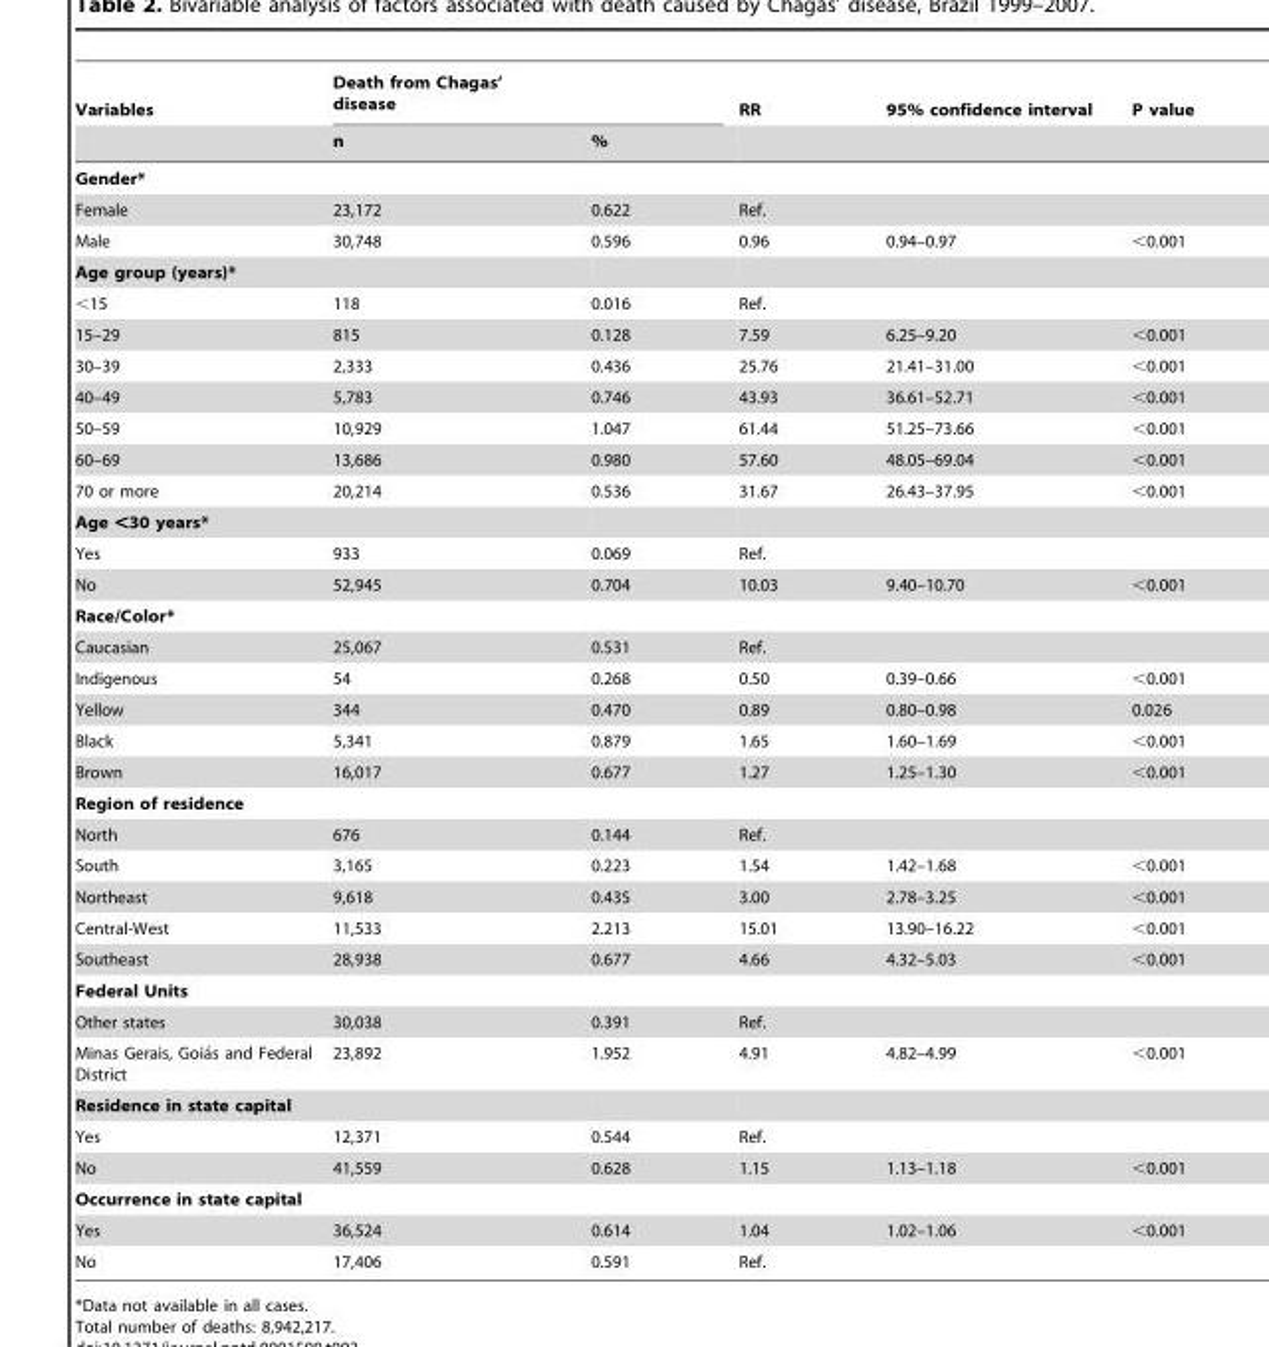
<table><thead><tr><td rowspan="2">Variables</td><td colspan="2">Death from Chagas’ disease</td><td rowspan="2">RR</td><td rowspan="2">95% confidence interval</td><td rowspan="2">P value</td></tr><tr><td>n</td><td>%</td></tr></thead><tbody><tr><td colspan="6">Gender*</td></tr><tr><td>Female</td><td>23,172</td><td>0.622</td><td>Ref.</td><td></td><td></td></tr><tr><td>Male</td><td>30,748</td><td>0.596</td><td>0.96</td><td>0.94–0.97</td><td>&lt;0.001</td></tr><tr><td colspan="6">Age group (years)*</td></tr><tr><td>&lt;15</td><td>118</td><td>0.016</td><td>Ref.</td><td></td><td></td></tr><tr><td>15–29</td><td>815</td><td>0.128</td><td>7.59</td><td>6.25–9.20</td><td>&lt;0.001</td></tr><tr><td>30–39</td><td>2,333</td><td>0.436</td><td>25.76</td><td>21.41–31.00</td><td>&lt;0.001</td></tr><tr><td>40–49</td><td>5,783</td><td>0.746</td><td>43.93</td><td>36.61–52.71</td><td>&lt;0.001</td></tr><tr><td>50–59</td><td>10,929</td><td>1.047</td><td>61.44</td><td>51.25–73.66</td><td>&lt;0.001</td></tr><tr><td>60–69</td><td>13,686</td><td>0.980</td><td>57.60</td><td>48.05–69.04</td><td>&lt;0.001</td></tr><tr><td>70 or more</td><td>20,214</td><td>0.536</td><td>31.67</td><td>26.43–37.95</td><td>&lt;0.001</td></tr><tr><td colspan="6">Age &lt;30 years*</td></tr><tr><td>Yes</td><td>933</td><td>0.069</td><td>Ref.</td><td></td><td></td></tr><tr><td>No</td><td>52,945</td><td>0.704</td><td>10.03</td><td>9.40–10.70</td><td>&lt;0.001</td></tr><tr><td colspan="6">Race/Color*</td></tr><tr><td>Caucasian</td><td>25,067</td><td>0.531</td><td>Ref.</td><td></td><td></td></tr><tr><td>Indigenous</td><td>54</td><td>0.268</td><td>0.50</td><td>0.39–0.66</td><td>&lt;0.001</td></tr><tr><td>Yellow</td><td>344</td><td>0.470</td><td>0.89</td><td>0.80–0.98</td><td>0.026</td></tr><tr><td>Black</td><td>5,341</td><td>0.879</td><td>1.65</td><td>1.60–1.69</td><td>&lt;0.001</td></tr><tr><td>Brown</td><td>16,017</td><td>0.677</td><td>1.27</td><td>1.25–1.30</td><td>&lt;0.001</td></tr><tr><td colspan="6">Region of residence</td></tr><tr><td>North</td><td>676</td><td>0.144</td><td>Ref.</td><td></td><td></td></tr><tr><td>South</td><td>3,165</td><td>0.223</td><td>1.54</td><td>1.42–1.68</td><td>&lt;0.001</td></tr><tr><td>Northeast</td><td>9,618</td><td>0.435</td><td>3.00</td><td>2.78–3.25</td><td>&lt;0.001</td></tr><tr><td>Central-West</td><td>11,533</td><td>2.213</td><td>15.01</td><td>13.90–16.22</td><td>&lt;0.001</td></tr><tr><td>Southeast</td><td>28,938</td><td>0.677</td><td>4.66</td><td>4.32–5.03</td><td>&lt;0.001</td></tr><tr><td colspan="6">Federal Units</td></tr><tr><td>Other states</td><td>30,038</td><td>0.391</td><td>Ref.</td><td></td><td></td></tr><tr><td>Minas Gerais, Goia´s and Federal District</td><td>23,892</td><td>1.952</td><td>4.91</td><td>4.82–4.99</td><td>&lt;0.001</td></tr><tr><td colspan="6">Residence in state capital</td></tr><tr><td>Yes</td><td>12,371</td><td>0.544</td><td>Ref.</td><td></td><td></td></tr><tr><td>No</td><td>41,559</td><td>0.628</td><td>1.15</td><td>1.13–1.18</td><td>&lt;0.001</td></tr><tr><td colspan="6">Occurrence in state capital</td></tr><tr><td>Yes</td><td>36,524</td><td>0.614</td><td>1.04</td><td>1.02–1.06</td><td>&lt;0.001</td></tr><tr><td>No</td><td>17,406</td><td>0.591</td><td>Ref.</td><td></td><td></td></tr></tbody></table>